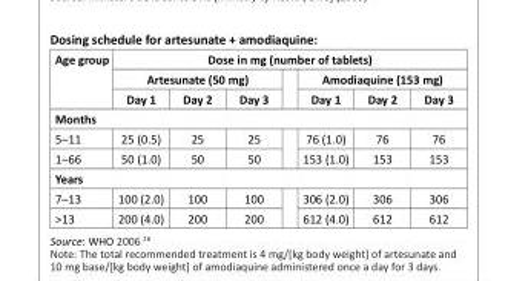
<table><thead><tr><td rowspan="3">Age group</td><td colspan="6">Dose in mg (number of tablets)</td></tr><tr><td colspan="3">Artesunate (50 mg)</td><td colspan="3">Amodiaquine (153 mg)</td></tr><tr><td>Day 1</td><td>Day 2</td><td>Day 3</td><td>Day 1</td><td>Day 2</td><td>Day 3</td></tr></thead><tbody><tr><td colspan="7">Months</td></tr><tr><td>5–11</td><td>25 (0.5)</td><td>25</td><td>25</td><td>76 (1.0)</td><td>76</td><td>76</td></tr><tr><td>1–66</td><td>50 (1.0)</td><td>50</td><td>50</td><td>153 (1.0)</td><td>153</td><td>153</td></tr><tr><td colspan="7">Years</td></tr><tr><td>7–13</td><td>100 (2.0)</td><td>100</td><td>100</td><td>306 (2.0)</td><td>306</td><td>306</td></tr><tr><td>&gt;13</td><td>200 (4.0)</td><td>200</td><td>200</td><td>612 (4.0)</td><td>612</td><td>612</td></tr></tbody></table>